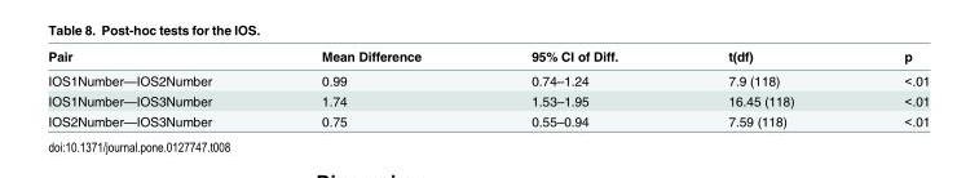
<table><thead><tr><td>Pair</td><td>Mean Difference</td><td>95% CI of Diff.</td><td>t(df)</td><td>p</td></tr></thead><tbody><tr><td>IOS1Number—IOS2Number</td><td>0.99</td><td>0.74–1.24</td><td>7.9 (118)</td><td>&lt;.01</td></tr><tr><td>IOS1Number—IOS3Number</td><td>1.74</td><td>1.53–1.95</td><td>16.45 (118)</td><td>&lt;.01</td></tr><tr><td>IOS2Number—IOS3Number</td><td>0.75</td><td>0.55–0.94</td><td>7.59 (118)</td><td>&lt;.01</td></tr></tbody></table>